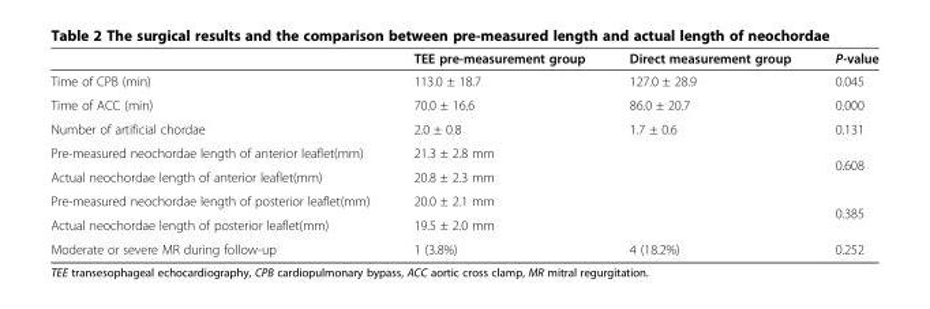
<table><thead><tr><td></td><td>TEE pre-measurement group</td><td>Direct measurement group</td><td>P-value</td></tr></thead><tbody><tr><td>Time of CPB (min)</td><td>113.0 ± 18.7</td><td>127.0 ± 28.9</td><td>0.045</td></tr><tr><td>Time of ACC (min)</td><td>70.0 ± 16.6</td><td>86.0 ± 20.7</td><td>0.000</td></tr><tr><td>Number of artificial chordae</td><td>2.0 ± 0.8</td><td>1.7 ± 0.6</td><td>0.131</td></tr><tr><td>Pre-measured neochordae length of anterior leaflet(mm)</td><td>21.3 ± 2.8 mm</td><td></td><td rowspan="2">0.608</td></tr><tr><td>Actual neochordae length of anterior leaflet(mm)</td><td>20.8 ± 2.3 mm</td><td></td></tr><tr><td>Pre-measured neochordae length of posterior leaflet(mm)</td><td>20.0 ± 2.1 mm</td><td></td><td rowspan="2">0.385</td></tr><tr><td>Actual neochordae length of posterior leaflet(mm)</td><td>19.5 ± 2.0 mm</td><td></td></tr><tr><td>Moderate or severe MR during follow-up</td><td>1 (3.8%)</td><td>4 (18.2%)</td><td>0.252</td></tr></tbody></table>